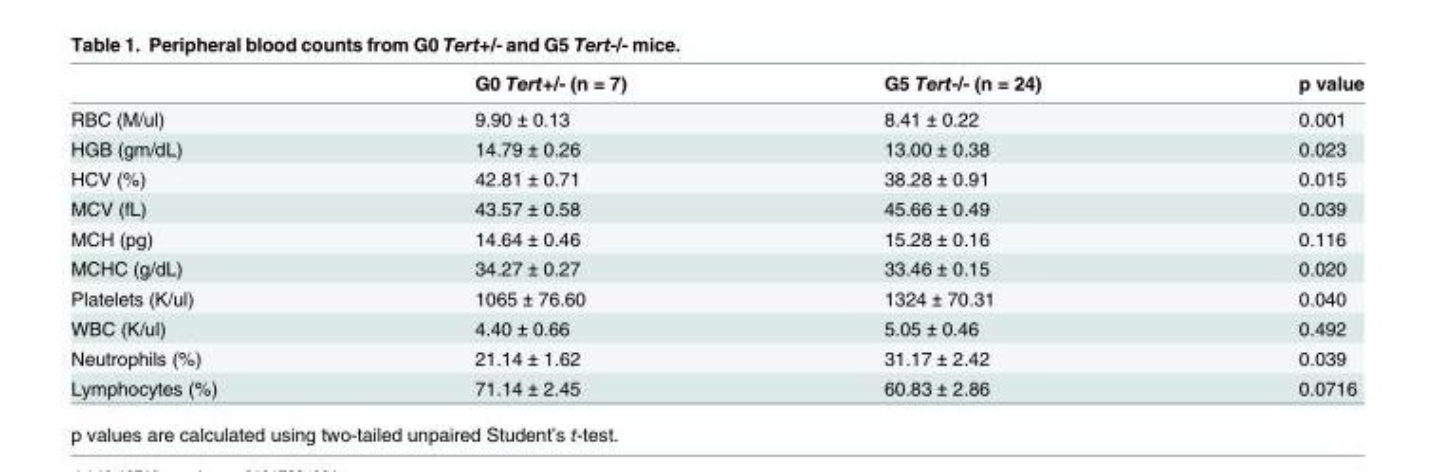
<table><thead><tr><td></td><td>G0 Tert+/- (n = 7)</td><td>G5 Tert-/- (n = 24)</td><td>p value</td></tr></thead><tbody><tr><td>RBC (M/ul)</td><td>9.90 ± 0.13</td><td>8.41 ± 0.22</td><td>0.001</td></tr><tr><td>HGB (gm/dL)</td><td>14.79 ± 0.26</td><td>13.00 ± 0.38</td><td>0.023</td></tr><tr><td>HCV (%)</td><td>42.81 ± 0.71</td><td>38.28 ± 0.91</td><td>0.015</td></tr><tr><td>MCV (fL)</td><td>43.57 ± 0.58</td><td>45.66 ± 0.49</td><td>0.039</td></tr><tr><td>MCH (pg)</td><td>14.64 ± 0.46</td><td>15.28 ± 0.16</td><td>0.116</td></tr><tr><td>MCHC (g/dL)</td><td>34.27 ± 0.27</td><td>33.46 ± 0.15</td><td>0.020</td></tr><tr><td>Platelets (K/ul)</td><td>1065 ± 76.60</td><td>1324 ± 70.31</td><td>0.040</td></tr><tr><td>WBC (K/ul)</td><td>4.40 ± 0.66</td><td>5.05 ± 0.46</td><td>0.492</td></tr><tr><td>Neutrophils (%)</td><td>21.14 ± 1.62</td><td>31.17 ± 2.42</td><td>0.039</td></tr><tr><td>Lymphocytes (%)</td><td>71.14 ± 2.45</td><td>60.83 ± 2.86</td><td>0.0716</td></tr></tbody></table>